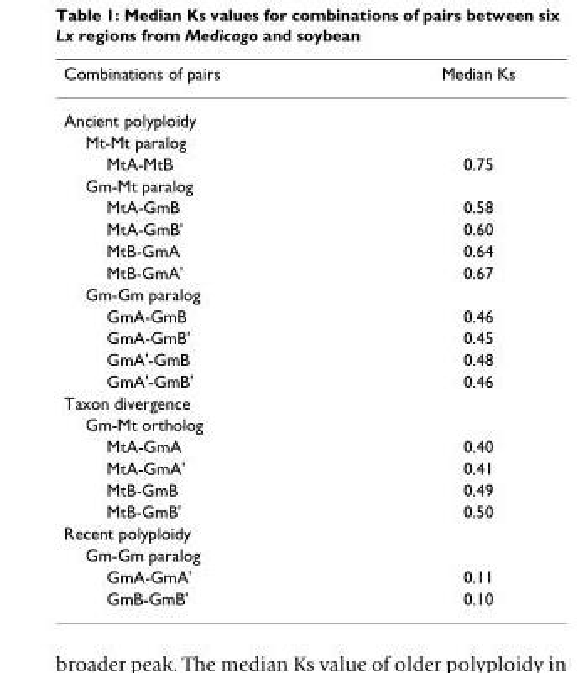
<table><thead><tr><td>Combinations of pairs</td><td>Median Ks</td></tr></thead><tbody><tr><td colspan="2">Ancient polyploidy</td></tr><tr><td colspan="2">Mt-Mt paralog</td></tr><tr><td>MtA-MtB</td><td>0.75</td></tr><tr><td colspan="2">Gm-Mt paralog</td></tr><tr><td>MtA-GmB</td><td>0.58</td></tr><tr><td>MtA-GmB&#x27;</td><td>0.60</td></tr><tr><td>MtB-GmA</td><td>0.64</td></tr><tr><td>MtB-GmA&#x27;</td><td>0.67</td></tr><tr><td colspan="2">Gm-Gm paralog</td></tr><tr><td>GmA-GmB</td><td>0.46</td></tr><tr><td>GmA-GmB&#x27;</td><td>0.45</td></tr><tr><td>GmA&#x27;-GmB</td><td>0.48</td></tr><tr><td>GmA&#x27;-GmB&#x27;</td><td>0.46</td></tr><tr><td colspan="2">Taxon divergence</td></tr><tr><td colspan="2">Gm-Mt ortholog</td></tr><tr><td>MtA-GmA</td><td>0.40</td></tr><tr><td>MtA-GmA&#x27;</td><td>0.41</td></tr><tr><td>MtB-GmB</td><td>0.49</td></tr><tr><td>MtB-GmB&#x27;</td><td>0.50</td></tr><tr><td colspan="2">Recent polyploidy</td></tr><tr><td colspan="2">Gm-Gm paralog</td></tr><tr><td>GmA-GmA&#x27;</td><td>0.11</td></tr><tr><td>GmB-GmB&#x27;</td><td>0.10</td></tr></tbody></table>